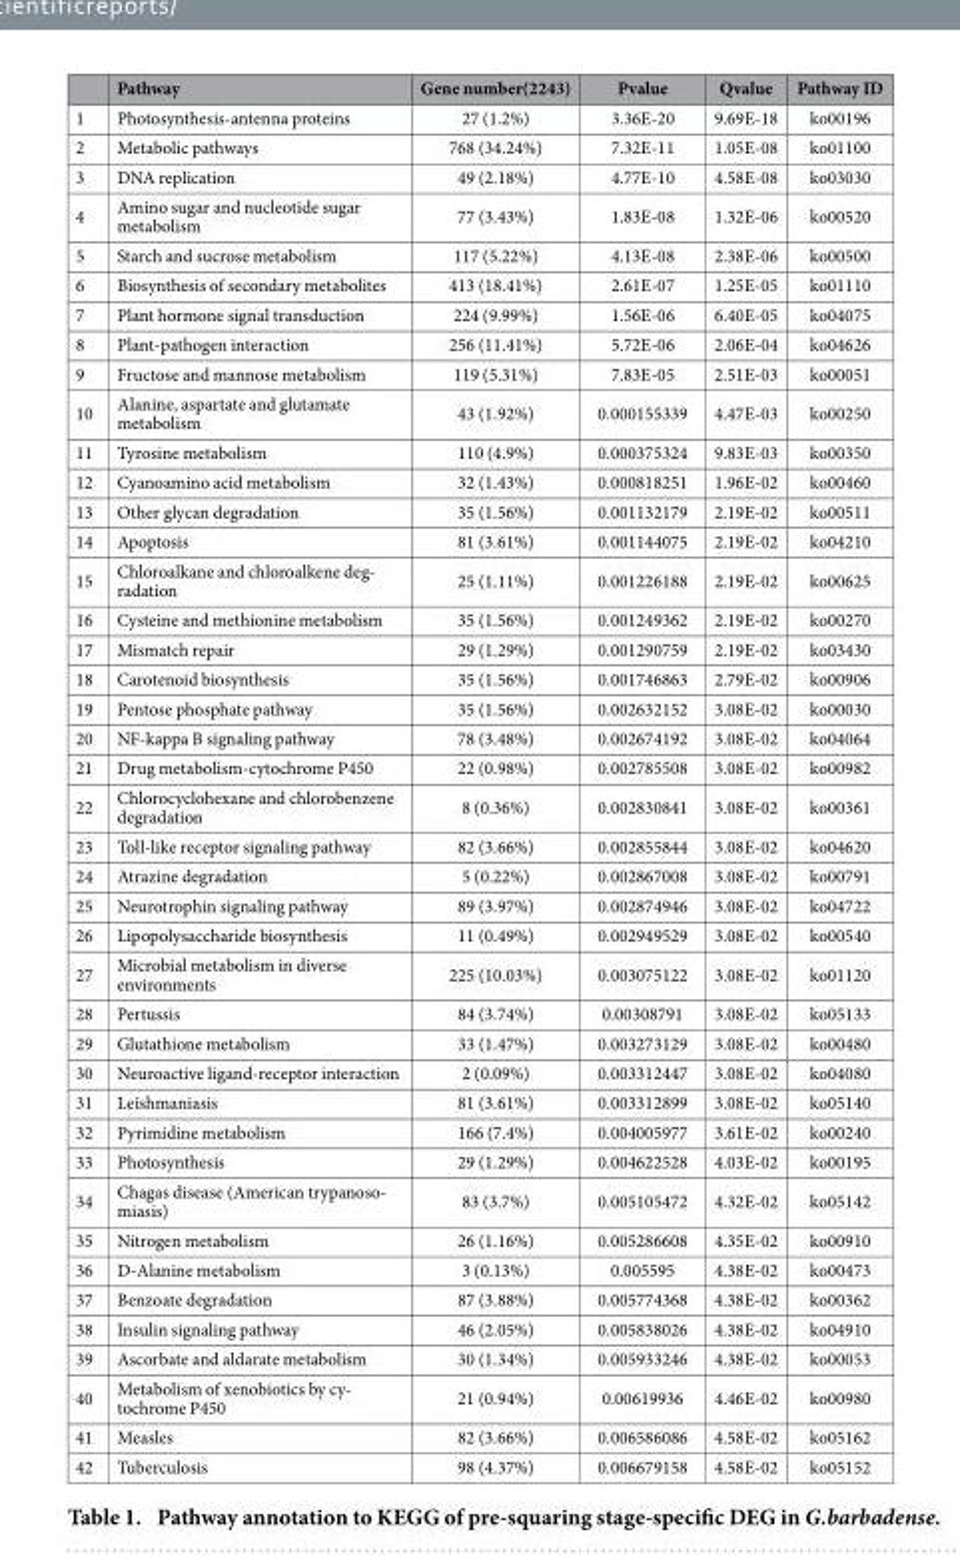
<table><thead><tr><td></td><td>Pathway</td><td>Gene number(2243)</td><td>Pvalue</td><td>Qvalue</td><td>Pathway ID</td></tr></thead><tbody><tr><td>1</td><td>Photosynthesis-antenna proteins</td><td>27 (1.2%)</td><td>3.36E-20</td><td>9.69E-18</td><td>ko00196</td></tr><tr><td>2</td><td>Metabolic pathways</td><td>768 (34.24%)</td><td>7.32E-11</td><td>1.05E-08</td><td>ko01100</td></tr><tr><td>3</td><td>DNA replication</td><td>49 (2.18%)</td><td>4.77E-10</td><td>4.58E-08</td><td>ko03030</td></tr><tr><td>4</td><td>Amino sugar and nucleotide sugar metabolism</td><td>77 (3.43%)</td><td>1.83E-08</td><td>1.32E-06</td><td>ko00520</td></tr><tr><td>5</td><td>Starch and sucrose metabolism</td><td>117 (5.22%)</td><td>4.13E-08</td><td>2.38E-06</td><td>ko00500</td></tr><tr><td>6</td><td>Biosynthesis of secondary metabolites</td><td>413 (18.41%)</td><td>2.61E-07</td><td>1.25E-05</td><td>ko01110</td></tr><tr><td>7</td><td>Plant hormone signal transduction</td><td>224 (9.99%)</td><td>1.56E-06</td><td>6.40E-05</td><td>ko04075</td></tr><tr><td>8</td><td>Plant-pathogen interaction</td><td>256 (11.41%)</td><td>5.72E-06</td><td>2.06E-04</td><td>ko04626</td></tr><tr><td>9</td><td>Fructose and mannose metabolism</td><td>119 (5.31%)</td><td>7.83E-05</td><td>2.51E-03</td><td>ko00051</td></tr><tr><td>10</td><td>Alanine, aspartate and glutamate metabolism</td><td>43 (1.92%)</td><td>0.000155339</td><td>4.47E-03</td><td>ko00250</td></tr><tr><td>11</td><td>Tyrosine metabolism</td><td>110 (4.9%)</td><td>0.000375324</td><td>9.83E-03</td><td>ko00350</td></tr><tr><td>12</td><td>Cyanoamino acid metabolism</td><td>32 (1.43%)</td><td>0.000818251</td><td>1.96E-02</td><td>ko00460</td></tr><tr><td>13</td><td>Other glycan degradation</td><td>35 (1.56%)</td><td>0.001132179</td><td>2.19E-02</td><td>ko00511</td></tr><tr><td>14</td><td>Apoptosis</td><td>81 (3.61%)</td><td>0.001144075</td><td>2.19E-02</td><td>ko04210</td></tr><tr><td>15</td><td>Chloroalkane and chloroalkene deg- radation</td><td>25 (1.11%)</td><td>0.001226188</td><td>2.19E-02</td><td>ko00625</td></tr><tr><td>16</td><td>Cysteine and methionine metabolism</td><td>35 (1.56%)</td><td>0.001249362</td><td>2.19E-02</td><td>ko00270</td></tr><tr><td>17</td><td>Mismatch repair</td><td>29 (1.29%)</td><td>0.001290759</td><td>2.19E-02</td><td>ko03430</td></tr><tr><td>18</td><td>Carotenoid biosynthesis</td><td>35 (1.56%)</td><td>0.001746863</td><td>2.79E-02</td><td>ko00906</td></tr><tr><td>19</td><td>Pentose phosphate pathway</td><td>35 (1.56%)</td><td>0.002632152</td><td>3.08E-02</td><td>ko00030</td></tr><tr><td>20</td><td>NF-kappa B signaling pathway</td><td>78 (3.48%)</td><td>0.002674192</td><td>3.08E-02</td><td>ko04064</td></tr><tr><td>21</td><td>Drug metabolism-cytochrome P450</td><td>22 (0.98%)</td><td>0.002785508</td><td>3.08E-02</td><td>ko00982</td></tr><tr><td>22</td><td>Chlorocyclohexane and chlorobenzene degradation</td><td>8 (0.36%)</td><td>0.002830841</td><td>3.08E-02</td><td>ko00361</td></tr><tr><td>23</td><td>Toll-like receptor signaling pathway</td><td>82 (3.66%)</td><td>0.002855844</td><td>3.08E-02</td><td>ko04620</td></tr><tr><td>24</td><td>Atrazine degradation</td><td>5 (0.22%)</td><td>0.002867008</td><td>3.08E-02</td><td>ko00791</td></tr><tr><td>25</td><td>Neurotrophin signaling pathway</td><td>89 (3.97%)</td><td>0.002874946</td><td>3.08E-02</td><td>ko04722</td></tr><tr><td>26</td><td>Lipopolysaccharide biosynthesis</td><td>11 (0.49%)</td><td>0.002949529</td><td>3.08E-02</td><td>ko00540</td></tr><tr><td>27</td><td>Microbial metabolism in diverse environments</td><td>225 (10.03%)</td><td>0.003075122</td><td>3.08E-02</td><td>ko01120</td></tr><tr><td>28</td><td>Pertussis</td><td>84 (3.74%)</td><td>0.00308791</td><td>3.08E-02</td><td>ko05133</td></tr><tr><td>29</td><td>Glutathione metabolism</td><td>33 (1.47%)</td><td>0.003273129</td><td>3.08E-02</td><td>ko00480</td></tr><tr><td>30</td><td>Neuroactive ligand-receptor interaction</td><td>2 (0.09%)</td><td>0.003312447</td><td>3.08E-02</td><td>ko04080</td></tr><tr><td>31</td><td>Leishmaniasis</td><td>81 (3.61%)</td><td>0.003312899</td><td>3.08E-02</td><td>ko05140</td></tr><tr><td>32</td><td>Pyrimidine metabolism</td><td>166 (7.4%)</td><td>0.004005977</td><td>3.61E-02</td><td>ko00240</td></tr><tr><td>33</td><td>Photosynthesis</td><td>29 (1.29%)</td><td>0.004622528</td><td>4.03E-02</td><td>ko00195</td></tr><tr><td>34</td><td>Chagas disease (American trypanoso- miasis)</td><td>83 (3.7%)</td><td>0.005105472</td><td>4.32E-02</td><td>ko05142</td></tr><tr><td>35</td><td>Nitrogen metabolism</td><td>26 (1.16%)</td><td>0.005286608</td><td>4.35E-02</td><td>ko00910</td></tr><tr><td>36</td><td>D-Alanine metabolism</td><td>3 (0.13%)</td><td>0.005595</td><td>4.38E-02</td><td>ko00473</td></tr><tr><td>37</td><td>Benzoate degradation</td><td>87 (3.88%)</td><td>0.005774368</td><td>4.38E-02</td><td>ko00362</td></tr><tr><td>38</td><td>Insulin signaling pathway</td><td>46 (2.05%)</td><td>0.005838026</td><td>4.38E-02</td><td>ko04910</td></tr><tr><td>39</td><td>Ascorbate and aldarate metabolism</td><td>30 (1.34%)</td><td>0.005933246</td><td>4.38E-02</td><td>ko00053</td></tr><tr><td>40</td><td>Metabolism of xenobiotics by cy- tochrome P450</td><td>21 (0.94%)</td><td>0.00619936</td><td>4.46E-02</td><td>ko00980</td></tr><tr><td>41</td><td>Measles</td><td>82 (3.66%)</td><td>0.006586086</td><td>4.58E-02</td><td>ko05162</td></tr><tr><td>42</td><td>Tuberculosis</td><td>98 (4.37%)</td><td>0.006679158</td><td>4.58E-02</td><td>ko05152</td></tr></tbody></table>